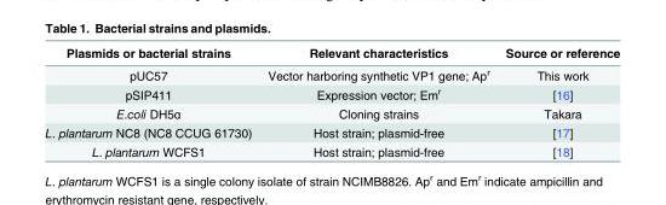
<table><thead><tr><td>Plasmids or bacterial strains</td><td>Relevant characteristics</td><td>Source or reference</td></tr></thead><tbody><tr><td>pUC57</td><td>Vector harboring synthetic VP1 gene; Ap<sup>r</sup></td><td>This work</td></tr><tr><td>pSIP411</td><td>Expression vector; Em<sup>r</sup></td><td>[16]</td></tr><tr><td>E.coli DH5ɑ</td><td>Cloning strains</td><td>Takara</td></tr><tr><td>L. plantarum NC8 (NC8 CCUG 61730)</td><td>Host strain; plasmid-free</td><td>[17]</td></tr><tr><td>L. plantarum WCFS1</td><td>Host strain; plasmid-free</td><td>[18]</td></tr></tbody></table>